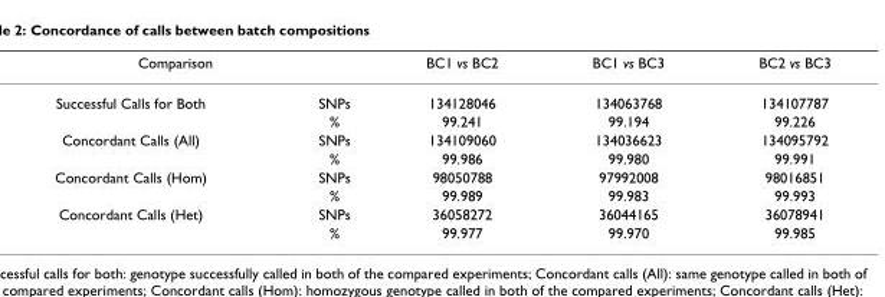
<table><thead><tr><td colspan="2">Comparison</td><td rowspan="2">BC1 vs BC2 134128046</td><td rowspan="2">BC1 vs BC3 134063768</td><td rowspan="2">BC2 vs BC3 134107787</td></tr><tr><td>Successful Calls for Both</td><td>SNPs</td></tr></thead><tbody><tr><td></td><td>%</td><td>99.241</td><td>99.194</td><td>99.226</td></tr><tr><td rowspan="2">Concordant Calls (All)</td><td>SNPs</td><td>134109060</td><td>134036623</td><td>134095792</td></tr><tr><td>%</td><td>99.986</td><td>99.980</td><td>99.991</td></tr><tr><td rowspan="2">Concordant Calls (Hom)</td><td>SNPs</td><td>98050788</td><td>97992008</td><td>98016851</td></tr><tr><td>%</td><td>99.989</td><td>99.983</td><td>99.993</td></tr><tr><td rowspan="2">Concordant Calls (Het)</td><td>SNPs</td><td>36058272</td><td>36044165</td><td>36078941</td></tr><tr><td>%</td><td>99.977</td><td>99.970</td><td>99.985</td></tr></tbody></table>